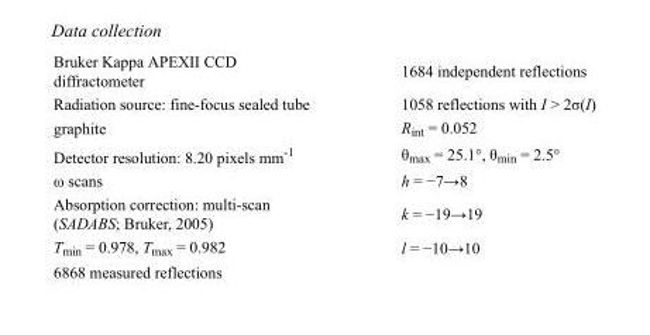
<table><tbody><tr><td>Bruker Kappa APEXII CCD diffractometer</td><td>1684 independent reflections</td></tr><tr><td>Radiation source: fine-focus sealed tube</td><td>1058 reflections with I &gt; 2σ(I)</td></tr><tr><td>graphite</td><td>R<sub>int</sub> = 0.052</td></tr><tr><td>Detector resolution: 8.20 pixels mm<sup>-1</sup></td><td>θ<sub>max</sub> = 25.1°, θ<sub>min</sub> = 2.5°</td></tr><tr><td>ω scans</td><td>h = −7→8</td></tr><tr><td>Absorption correction: multi-scan (SADABS; Bruker, 2005)</td><td>k = −19→19</td></tr><tr><td>T<sub>min</sub> = 0.978, T<sub>max</sub> = 0.982</td><td>l = −10→10</td></tr><tr><td>6868 measured reflections</td><td></td></tr></tbody></table>